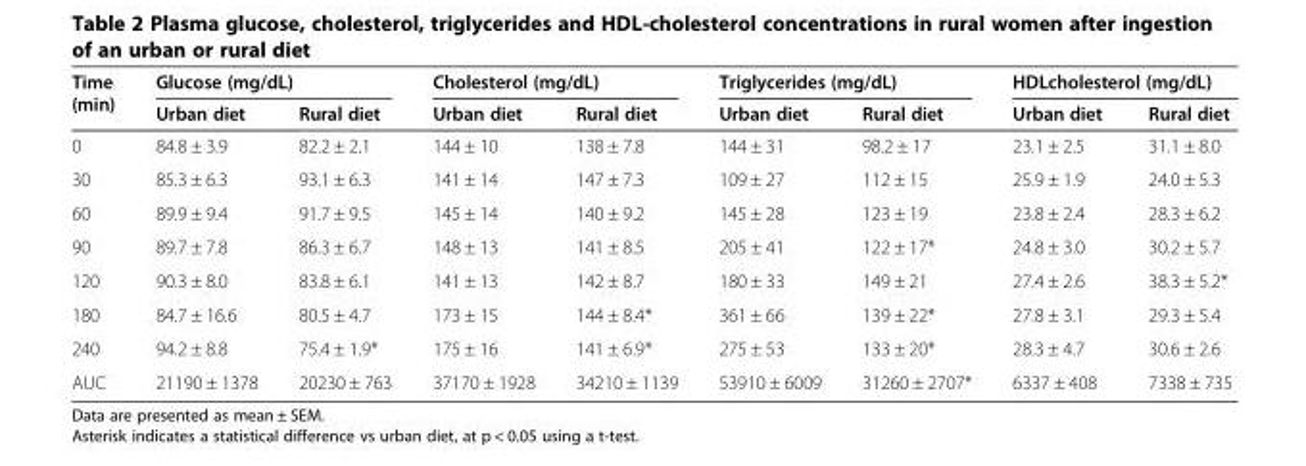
<table><thead><tr><td rowspan="2">Time (min)</td><td colspan="2">Glucose (mg/dL)</td><td colspan="2">Cholesterol (mg/dL)</td><td colspan="2">Triglycerides (mg/dL)</td><td colspan="2">HDLcholesterol (mg/dL)</td></tr><tr><td>Urban diet</td><td>Rural diet</td><td>Urban diet</td><td>Rural diet</td><td>Urban diet</td><td>Rural diet</td><td>Urban diet</td><td>Rural diet</td></tr></thead><tbody><tr><td>0</td><td>84.8 ± 3.9</td><td>82.2 ± 2.1</td><td>144 ± 10</td><td>138 ± 7.8</td><td>144 ± 31</td><td>98.2 ± 17</td><td>23.1 ± 2.5</td><td>31.1 ± 8.0</td></tr><tr><td>30</td><td>85.3 ± 6.3</td><td>93.1 ± 6.3</td><td>141 ± 14</td><td>147 ± 7.3</td><td>109 ± 27</td><td>112 ± 15</td><td>25.9 ± 1.9</td><td>24.0 ± 5.3</td></tr><tr><td>60</td><td>89.9 ± 9.4</td><td>91.7 ± 9.5</td><td>145 ± 14</td><td>140 ± 9.2</td><td>145 ± 28</td><td>123 ± 19</td><td>23.8 ± 2.4</td><td>28.3 ± 6.2</td></tr><tr><td>90</td><td>89.7 ± 7.8</td><td>86.3 ± 6.7</td><td>148 ± 13</td><td>141 ± 8.5</td><td>205 ± 41</td><td>122 ± 17*</td><td>24.8 ± 3.0</td><td>30.2 ± 5.7</td></tr><tr><td>120</td><td>90.3 ± 8.0</td><td>83.8 ± 6.1</td><td>141 ± 13</td><td>142 ± 8.7</td><td>180 ± 33</td><td>149 ± 21</td><td>27.4 ± 2.6</td><td>38.3 ± 5.2*</td></tr><tr><td>180</td><td>84.7 ± 16.6</td><td>80.5 ± 4.7</td><td>173 ± 15</td><td>144 ± 8.4*</td><td>361 ± 66</td><td>139 ± 22*</td><td>27.8 ± 3.1</td><td>29.3 ± 5.4</td></tr><tr><td>240</td><td>94.2 ± 8.8</td><td>75.4 ± 1.9*</td><td>175 ± 16</td><td>141 ± 6.9*</td><td>275 ± 53</td><td>133 ± 20*</td><td>28.3 ± 4.7</td><td>30.6 ± 2.6</td></tr><tr><td>AUC</td><td>21190 ± 1378</td><td>20230 ± 763</td><td>37170 ± 1928</td><td>34210 ± 1139</td><td>53910 ± 6009</td><td>31260 ± 2707*</td><td>6337 ± 408</td><td>7338 ± 735</td></tr></tbody></table>